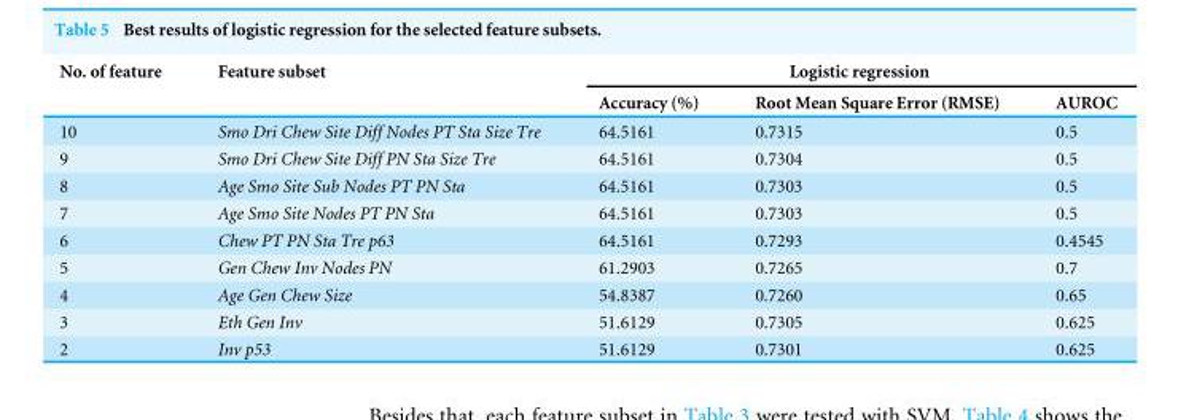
<table><thead><tr><td rowspan="2">No. of feature</td><td rowspan="2">Feature subset</td><td colspan="3">Logistic regression</td></tr><tr><td>Accuracy (%)</td><td>Root Mean Square Error (RMSE)</td><td>AUROC</td></tr></thead><tbody><tr><td>10</td><td>Smo Dri Chew Site Diff Nodes PT Sta Size Tre</td><td>64.5161</td><td>0.7315</td><td>0.5</td></tr><tr><td>9</td><td>Smo Dri Chew Site Diff PN Sta Size Tre</td><td>64.5161</td><td>0.7304</td><td>0.5</td></tr><tr><td>8</td><td>Age Smo Site Sub Nodes PT PN Sta</td><td>64.5161</td><td>0.7303</td><td>0.5</td></tr><tr><td>7</td><td>Age Smo Site Nodes PT PN Sta</td><td>64.5161</td><td>0.7303</td><td>0.5</td></tr><tr><td>6</td><td>Chew PT PN Sta Tre p63</td><td>64.5161</td><td>0.7293</td><td>0.4545</td></tr><tr><td>5</td><td>Gen Chew Inv Nodes PN</td><td>61.2903</td><td>0.7265</td><td>0.7</td></tr><tr><td>4</td><td>Age Gen Chew Size</td><td>54.8387</td><td>0.7260</td><td>0.65</td></tr><tr><td>3</td><td>Eth Gen Inv</td><td>51.6129</td><td>0.7305</td><td>0.625</td></tr><tr><td>2</td><td>Inv p53</td><td>51.6129</td><td>0.7301</td><td>0.625</td></tr></tbody></table>